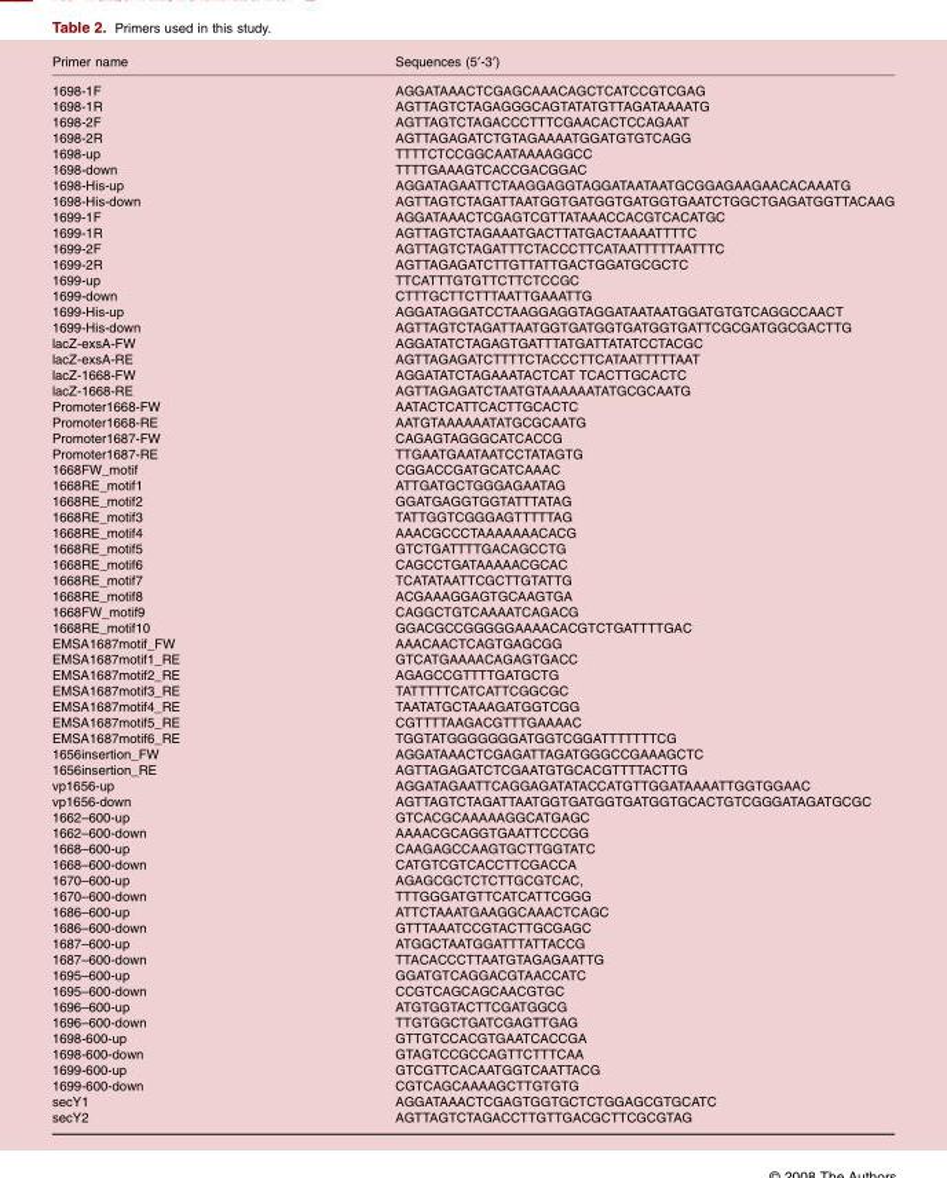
<table><thead><tr><td>Primer name</td><td>Sequences (5′-3′)</td></tr></thead><tbody><tr><td>1698-1F</td><td>AGGATAAACTCGAGCAAACAGCTCATCCGTCGAG</td></tr><tr><td>1698-1R</td><td>AGTTAGTCTAGAGGGCAGTATATGTTAGATAAAATG</td></tr><tr><td>1698-2F</td><td>AGTTAGTCTAGACCCTTTCGAACACTCCAGAAT</td></tr><tr><td>1698-2R</td><td>AGTTAGAGATCTGTAGAAAATGGATGTGTCAGG</td></tr><tr><td>1698-up</td><td>TTTTCTCCGGCAATAAAAGGCC</td></tr><tr><td>1698-down</td><td>TTTTGAAAGTCACCGACGGAC</td></tr><tr><td>1698-His-up</td><td>AGGATAGAATTCTAAGGAGGTAGGATAATAATGCGGAGAAGAACACAAATG</td></tr><tr><td>1698-His-down</td><td>AGTTAGTCTAGATTAATGGTGATGGTGATGGTGAATCTGGCTGAGATGGTTACAAG</td></tr><tr><td>1699-1F</td><td>AGGATAAACTCGAGTCGTTATAAACCACGTCACATGC</td></tr><tr><td>1699-1R</td><td>AGTTAGTCTAGAAATGACTTATGACTAAAATTTTC</td></tr><tr><td>1699-2F</td><td>AGTTAGTCTAGATTTCTACCCTTCATAATTTTTAATTTC</td></tr><tr><td>1699-2R</td><td>AGTTAGAGATCTTGTTATTGACTGGATGCGCTC</td></tr><tr><td>1699-up</td><td>TTCATTTGTGTTCTTCTCCGC</td></tr><tr><td>1699-down</td><td>CTTTGCTTCTTTAATTGAAATTG</td></tr><tr><td>1699-His-up</td><td>AGGATAGGATCCTAAGGAGGTAGGATAATAATGGATGTGTCAGGCCAACT</td></tr><tr><td>1699-His-down</td><td>AGTTAGTCTAGATTAATGGTGATGGTGATGGTGATTCGCGATGGCGACTTG</td></tr><tr><td>lacZ-exsA-FW</td><td>AGGATATCTAGAGTGATTTATGATTATATCCTACGC</td></tr><tr><td>lacZ-exsA-RE</td><td>AGTTAGAGATCTTTTCTACCCTTCATAATTTTTAAT</td></tr><tr><td>lacZ-1668-FW</td><td>AGGATATCTAGAAATACTCAT TCACTTGCACTC</td></tr><tr><td>lacZ-1668-RE</td><td>AGTTAGAGATCTAATGTAAAAAATATGCGCAATG</td></tr><tr><td>Promoter1668-FW</td><td>AATACTCATTCACTTGCACTC</td></tr><tr><td>Promoter1668-RE</td><td>AATGTAAAAAATATGCGCAATG</td></tr><tr><td>Promoter1687-FW</td><td>CAGAGTAGGGCATCACCG</td></tr><tr><td>Promoter1687-RE</td><td>TTGAATGAATAATCCTATAGTG</td></tr><tr><td>1668FW_motif</td><td>CGGACCGATGCATCAAAC</td></tr><tr><td>1668RE_motif1</td><td>ATTGATGCTGGGAGAATAG</td></tr><tr><td>1668RE_motif2</td><td>GGATGAGGTGGTATTTATAG</td></tr><tr><td>1668RE_motif3</td><td>TATTGGTCGGGAGTTTTTAG</td></tr><tr><td>1668RE_motif4</td><td>AAACGCCCTAAAAAAACACG</td></tr><tr><td>1668RE_motif5</td><td>GTCTGATTTTGACAGCCTG</td></tr><tr><td>1668RE_motif6</td><td>CAGCCTGATAAAAACGCAC</td></tr><tr><td>1668RE_motif7</td><td>TCATATAATTCGCTTGTATTG</td></tr><tr><td>1668RE_motif8</td><td>ACGAAAGGAGTGCAAGTGA</td></tr><tr><td>1668FW_motif9</td><td>CAGGCTGTCAAAATCAGACG</td></tr><tr><td>1668RE_motif10</td><td>GGACGCCGGGGGAAAACACGTCTGATTTTGAC</td></tr><tr><td>EMSA1687motif_FW</td><td>AAACAACTCAGTGAGCGG</td></tr><tr><td>EMSA1687motif1_RE</td><td>GTCATGAAAACAGAGTGACC</td></tr><tr><td>EMSA1687motif2_RE</td><td>AGAGCCGTTTTGATGCTG</td></tr><tr><td>EMSA1687motif3_RE</td><td>TATTTTTCATCATTCGGCGC</td></tr><tr><td>EMSA1687motif4_RE</td><td>TAATATGCTAAAGATGGTCGG</td></tr><tr><td>EMSA1687motif5_RE</td><td>CGTTTTAAGACGTTTGAAAAC</td></tr><tr><td>EMSA1687motif6_RE</td><td>TGGTATGGGGGGGATGGTCGGATTTTTTTCG</td></tr><tr><td>1656insertion_FW</td><td>AGGATAAACTCGAGATTAGATGGGCCGAAAGCTC</td></tr><tr><td>1656insertion_RE</td><td>AGTTAGAGATCTCGAATGTGCACGTTTTACTTG</td></tr><tr><td>vp1656-up</td><td>AGGATAGAATTCAGGAGATATACCATGTTGGATAAAATTGGTGGAAC</td></tr><tr><td>vp1656-down</td><td>AGTTAGTCTAGATTAATGGTGATGGTGATGGTGCACTGTCGGGATAGATGCGC</td></tr><tr><td>1662–600-up</td><td>GTCACGCAAAAAGGCATGAGC</td></tr><tr><td>1662–600-down</td><td>AAAACGCAGGTGAATTCCCGG</td></tr><tr><td>1668–600-up</td><td>CAAGAGCCAAGTGCTTGGTATC</td></tr><tr><td>1668–600-down</td><td>CATGTCGTCACCTTCGACCA</td></tr><tr><td>1670–600-up</td><td>AGAGCGCTCTCTTGCGTCAC,</td></tr><tr><td>1670–600-down</td><td>TTTGGGATGTTCATCATTCGGG</td></tr><tr><td>1686–600-up</td><td>ATTCTAAATGAAGGCAAACTCAGC</td></tr><tr><td>1686–600-down</td><td>GTTTAAATCCGTACTTGCGAGC</td></tr><tr><td>1687–600-up</td><td>ATGGCTAATGGATTTATTACCG</td></tr><tr><td>1687–600-down</td><td>TTACACCCTTAATGTAGAGAATTG</td></tr><tr><td>1695–600-up</td><td>GGATGTCAGGACGTAACCATC</td></tr><tr><td>1695–600-down</td><td>CCGTCAGCAGCAACGTGC</td></tr><tr><td>1696–600-up</td><td>ATGTGGTACTTCGATGGCG</td></tr><tr><td>1696–600-down</td><td>TTGTGGCTGATCGAGTTGAG</td></tr><tr><td>1698-600-up</td><td>GTTGTCCACGTGAATCACCGA</td></tr><tr><td>1698-600-down</td><td>GTAGTCCGCCAGTTCTTTCAA</td></tr><tr><td>1699-600-up</td><td>GTCGTTCACAATGGTCAATTACG</td></tr><tr><td>1699-600-down</td><td>CGTCAGCAAAAGCTTGTGTG</td></tr><tr><td>secY1</td><td>AGGATAAACTCGAGTGGTGCTCTGGAGCGTGCATC</td></tr><tr><td>secY2</td><td>AGTTAGTCTAGACCTTGTTGACGCTTCGCGTAG</td></tr></tbody></table>